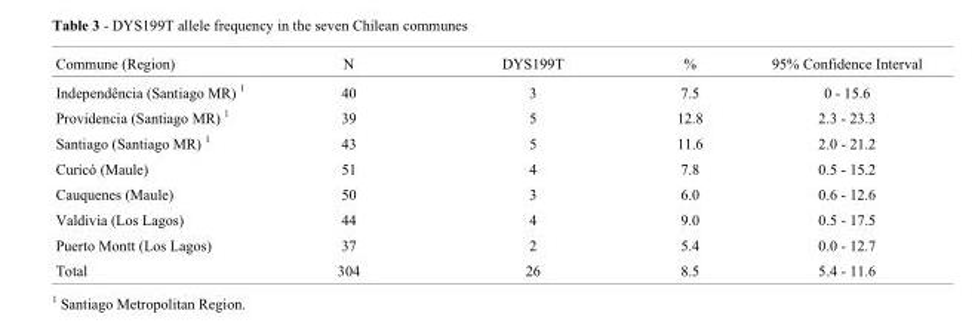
<table><thead><tr><td>Commune (Region)</td><td>N</td><td>DYS199T</td><td>%</td><td>95% Confidence Interval</td></tr></thead><tbody><tr><td>Independência (Santiago MR) 1</td><td>40</td><td>3</td><td>7.5</td><td>0 - 15.6</td></tr><tr><td>Providencia (Santiago MR) 1</td><td>39</td><td>5</td><td>12.8</td><td>2.3 - 23.3</td></tr><tr><td>Santiago (Santiago MR) 1</td><td>43</td><td>5</td><td>11.6</td><td>2.0 - 21.2</td></tr><tr><td>Curicó (Maule)</td><td>51</td><td>4</td><td>7.8</td><td>0.5 - 15.2</td></tr><tr><td>Cauquenes (Maule)</td><td>50</td><td>3</td><td>6.0</td><td>0.6 - 12.6</td></tr><tr><td>Valdivia (Los Lagos)</td><td>44</td><td>4</td><td>9.0</td><td>0.5 - 17.5</td></tr><tr><td>Puerto Montt (Los Lagos)</td><td>37</td><td>2</td><td>5.4</td><td>0.0 - 12.7</td></tr><tr><td>Total</td><td>304</td><td>26</td><td>8.5</td><td>5.4 - 11.6</td></tr></tbody></table>